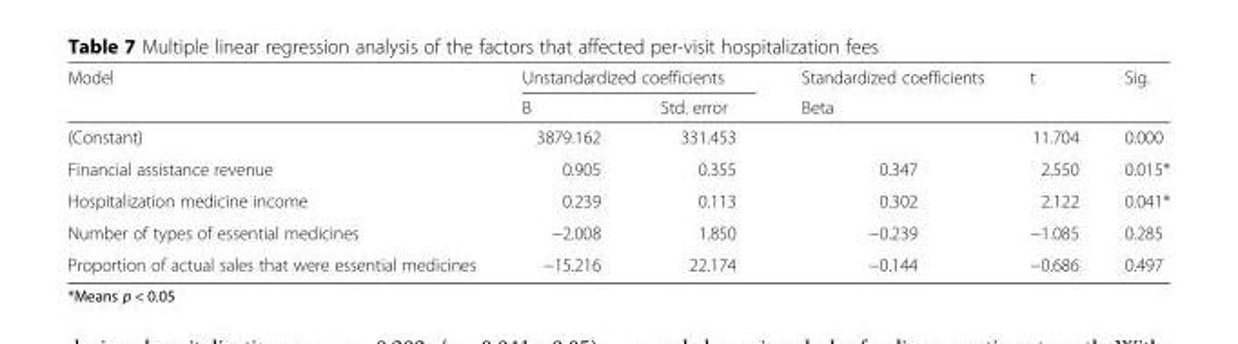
<table><thead><tr><td rowspan="2">Model</td><td colspan="2">Unstandardized coefficients</td><td rowspan="2">Standardized coefficients Beta</td><td rowspan="2">t</td><td rowspan="2">Sig.</td></tr><tr><td>B</td><td>Std. error</td></tr></thead><tbody><tr><td>(Constant)</td><td>3879.162</td><td>331.453</td><td></td><td>11.704</td><td>0.000</td></tr><tr><td>Financial assistance revenue</td><td>0.905</td><td>0.355</td><td>0.347</td><td>2.550</td><td>0.015*</td></tr><tr><td>Hospitalization medicine income</td><td>0.239</td><td>0.113</td><td>0.302</td><td>2.122</td><td>0.041*</td></tr><tr><td>Number of types of essential medicines</td><td>−2.008</td><td>1.850</td><td>−0.239</td><td>−1.085</td><td>0.285</td></tr><tr><td>Proportion of actual sales that were essential medicines</td><td>−15.216</td><td>22.174</td><td>−0.144</td><td>−0.686</td><td>0.497</td></tr></tbody></table>